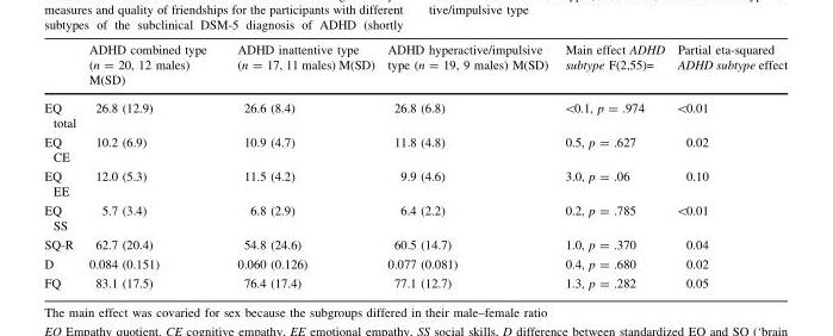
<table><thead><tr><td></td><td>ADHD combined type (n = 20, 12 males) M(SD)</td><td>ADHD inattentive type (n = 17, 11 males) M(SD)</td><td>ADHD hyperactive/impulsive type (n = 19, 9 males) M(SD)</td><td>Main effect ADHD subtype F(2,55)=</td><td>Partial eta-squared ADHD subtype effect</td></tr></thead><tbody><tr><td>EQ total</td><td>26.8 (12.9)</td><td>26.6 (8.4)</td><td>26.8 (6.8)</td><td>&lt;0.1, p = .974</td><td>&lt;0.01</td></tr><tr><td>EQ CE</td><td>10.2 (6.9)</td><td>10.9 (4.7)</td><td>11.8 (4.8)</td><td>0.5, p = .627</td><td>0.02</td></tr><tr><td>EQ EE</td><td>12.0 (5.3)</td><td>11.5 (4.2)</td><td>9.9 (4.6)</td><td>3.0, p = .06</td><td>0.10</td></tr><tr><td>EQ SS</td><td>5.7 (3.4)</td><td>6.8 (2.9)</td><td>6.4 (2.2)</td><td>0.2, p = .785</td><td>&lt;0.01</td></tr><tr><td>SQ-R</td><td>62.7 (20.4)</td><td>54.8 (24.6)</td><td>60.5 (14.7)</td><td>1.0, p = .370</td><td>0.04</td></tr><tr><td>D</td><td>0.084 (0.151)</td><td>0.060 (0.126)</td><td>0.077 (0.081)</td><td>0.4, p = .680</td><td>0.02</td></tr><tr><td>FQ</td><td>83.1 (17.5)</td><td>76.4 (17.4)</td><td>77.1 (12.7)</td><td>1.3, p = .282</td><td>0.05</td></tr></tbody></table>